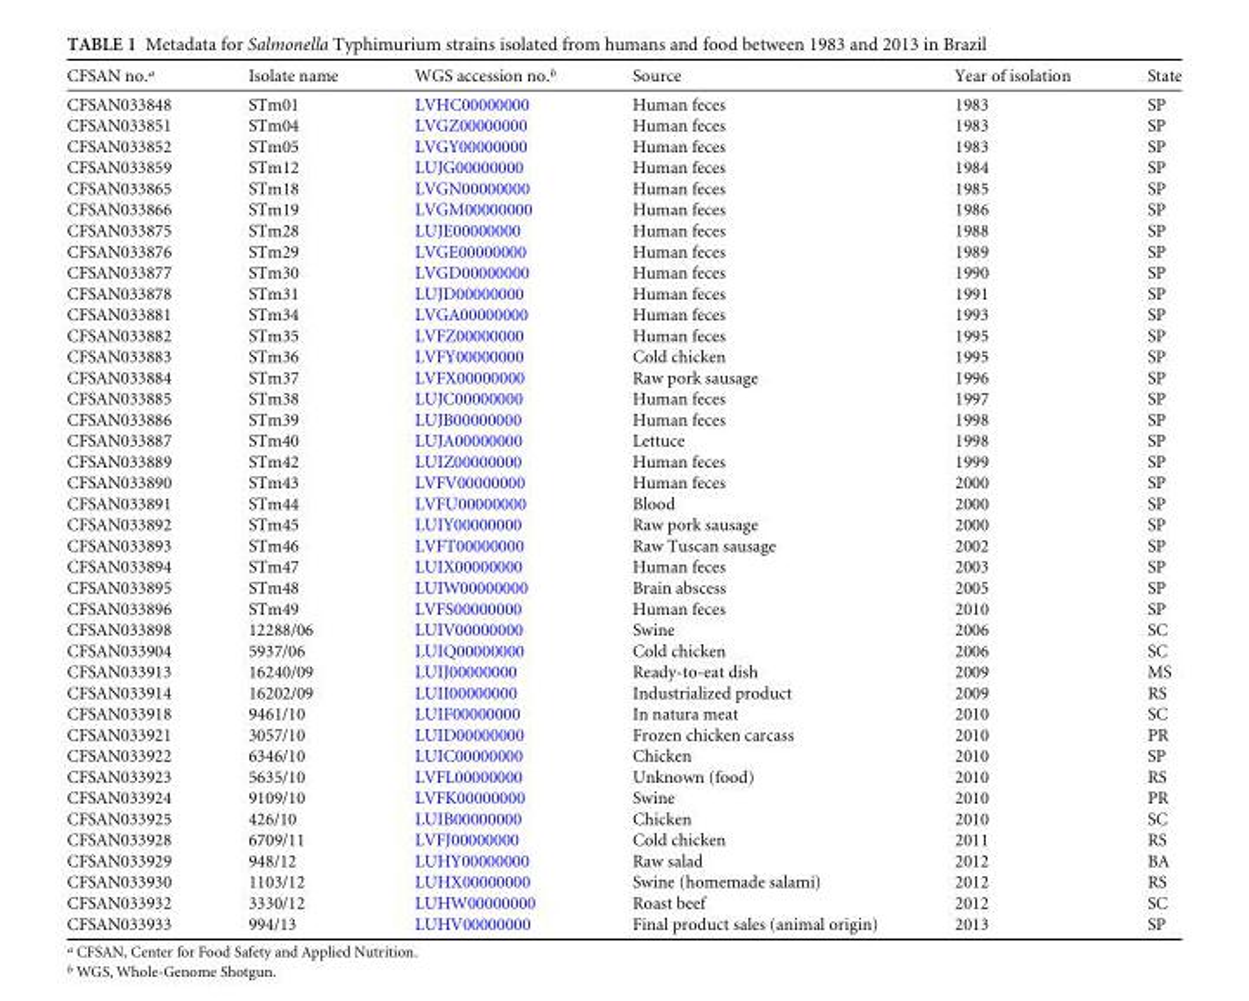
<table><thead><tr><td>CFSAN no.<sup>a</sup></td><td>Isolate name</td><td>WGS accession no.<sup>b</sup></td><td>Source</td><td>Year of isolation</td><td>State</td></tr></thead><tbody><tr><td>CFSAN033848</td><td>STm01</td><td>LVHC00000000</td><td>Human feces</td><td>1983</td><td>SP</td></tr><tr><td>CFSAN033851</td><td>STm04</td><td>LVGZ00000000</td><td>Human feces</td><td>1983</td><td>SP</td></tr><tr><td>CFSAN033852</td><td>STm05</td><td>LVGY00000000</td><td>Human feces</td><td>1983</td><td>SP</td></tr><tr><td>CFSAN033859</td><td>STm12</td><td>LUJG00000000</td><td>Human feces</td><td>1984</td><td>SP</td></tr><tr><td>CFSAN033865</td><td>STm18</td><td>LVGN00000000</td><td>Human feces</td><td>1985</td><td>SP</td></tr><tr><td>CFSAN033866</td><td>STm19</td><td>LVGM00000000</td><td>Human feces</td><td>1986</td><td>SP</td></tr><tr><td>CFSAN033875</td><td>STm28</td><td>LUJE00000000</td><td>Human feces</td><td>1988</td><td>SP</td></tr><tr><td>CFSAN033876</td><td>STm29</td><td>LVGE00000000</td><td>Human feces</td><td>1989</td><td>SP</td></tr><tr><td>CFSAN033877</td><td>STm30</td><td>LVGD00000000</td><td>Human feces</td><td>1990</td><td>SP</td></tr><tr><td>CFSAN033878</td><td>STm31</td><td>LUJD00000000</td><td>Human feces</td><td>1991</td><td>SP</td></tr><tr><td>CFSAN033881</td><td>STm34</td><td>LVGA00000000</td><td>Human feces</td><td>1993</td><td>SP</td></tr><tr><td>CFSAN033882</td><td>STm35</td><td>LVFZ00000000</td><td>Human feces</td><td>1995</td><td>SP</td></tr><tr><td>CFSAN033883</td><td>STm36</td><td>LVFY00000000</td><td>Cold chicken</td><td>1995</td><td>SP</td></tr><tr><td>CFSAN033884</td><td>STm37</td><td>LVFX00000000</td><td>Raw pork sausage</td><td>1996</td><td>SP</td></tr><tr><td>CFSAN033885</td><td>STm38</td><td>LUJC00000000</td><td>Human feces</td><td>1997</td><td>SP</td></tr><tr><td>CFSAN033886</td><td>STm39</td><td>LUJB00000000</td><td>Human feces</td><td>1998</td><td>SP</td></tr><tr><td>CFSAN033887</td><td>STm40</td><td>LUJA00000000</td><td>Lettuce</td><td>1998</td><td>SP</td></tr><tr><td>CFSAN033889</td><td>STm42</td><td>LUIZ00000000</td><td>Human feces</td><td>1999</td><td>SP</td></tr><tr><td>CFSAN033890</td><td>STm43</td><td>LVFV00000000</td><td>Human feces</td><td>2000</td><td>SP</td></tr><tr><td>CFSAN033891</td><td>STm44</td><td>LVFU00000000</td><td>Blood</td><td>2000</td><td>SP</td></tr><tr><td>CFSAN033892</td><td>STm45</td><td>LUIY00000000</td><td>Raw pork sausage</td><td>2000</td><td>SP</td></tr><tr><td>CFSAN033893</td><td>STm46</td><td>LVFT00000000</td><td>Raw Tuscan sausage</td><td>2002</td><td>SP</td></tr><tr><td>CFSAN033894</td><td>STm47</td><td>LUIX00000000</td><td>Human feces</td><td>2003</td><td>SP</td></tr><tr><td>CFSAN033895</td><td>STm48</td><td>LUIW00000000</td><td>Brain abscess</td><td>2005</td><td>SP</td></tr><tr><td>CFSAN033896</td><td>STm49</td><td>LVFS00000000</td><td>Human feces</td><td>2010</td><td>SP</td></tr><tr><td>CFSAN033898</td><td>12288/06</td><td>LUIV00000000</td><td>Swine</td><td>2006</td><td>SC</td></tr><tr><td>CFSAN033904</td><td>5937/06</td><td>LUIQ00000000</td><td>Cold chicken</td><td>2006</td><td>SC</td></tr><tr><td>CFSAN033913</td><td>16240/09</td><td>LUIJ00000000</td><td>Ready-to-eat dish</td><td>2009</td><td>MS</td></tr><tr><td>CFSAN033914</td><td>16202/09</td><td>LUII00000000</td><td>Industrialized product</td><td>2009</td><td>RS</td></tr><tr><td>CFSAN033918</td><td>9461/10</td><td>LUIF00000000</td><td>In natura meat</td><td>2010</td><td>SC</td></tr><tr><td>CFSAN033921</td><td>3057/10</td><td>LUID00000000</td><td>Frozen chicken carcass</td><td>2010</td><td>PR</td></tr><tr><td>CFSAN033922</td><td>6346/10</td><td>LUIC00000000</td><td>Chicken</td><td>2010</td><td>SP</td></tr><tr><td>CFSAN033923</td><td>5635/10</td><td>LVFL00000000</td><td>Unknown (food)</td><td>2010</td><td>RS</td></tr><tr><td>CFSAN033924</td><td>9109/10</td><td>LVFK00000000</td><td>Swine</td><td>2010</td><td>PR</td></tr><tr><td>CFSAN033925</td><td>426/10</td><td>LUIB00000000</td><td>Chicken</td><td>2010</td><td>SC</td></tr><tr><td>CFSAN033928</td><td>6709/11</td><td>LVFJ00000000</td><td>Cold chicken</td><td>2011</td><td>RS</td></tr><tr><td>CFSAN033929</td><td>948/12</td><td>LUHY00000000</td><td>Raw salad</td><td>2012</td><td>BA</td></tr><tr><td>CFSAN033930</td><td>1103/12</td><td>LUHX00000000</td><td>Swine (homemade salami)</td><td>2012</td><td>RS</td></tr><tr><td>CFSAN033932</td><td>3330/12</td><td>LUHW00000000</td><td>Roast beef</td><td>2012</td><td>SC</td></tr><tr><td>CFSAN033933</td><td>994/13</td><td>LUHV00000000</td><td>Final product sales (animal origin)</td><td>2013</td><td>SP</td></tr></tbody></table>